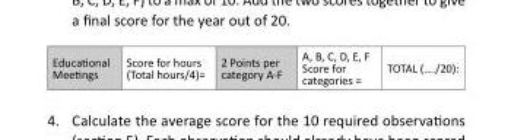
<table><tbody><tr><td>Educational Meetings</td><td>Score for hours (Total hours/4)=</td><td>2 Points per category A-F</td><td>A, B, C, D, E, F Score for categories =</td><td>TOTAL (…./20):</td></tr></tbody></table>